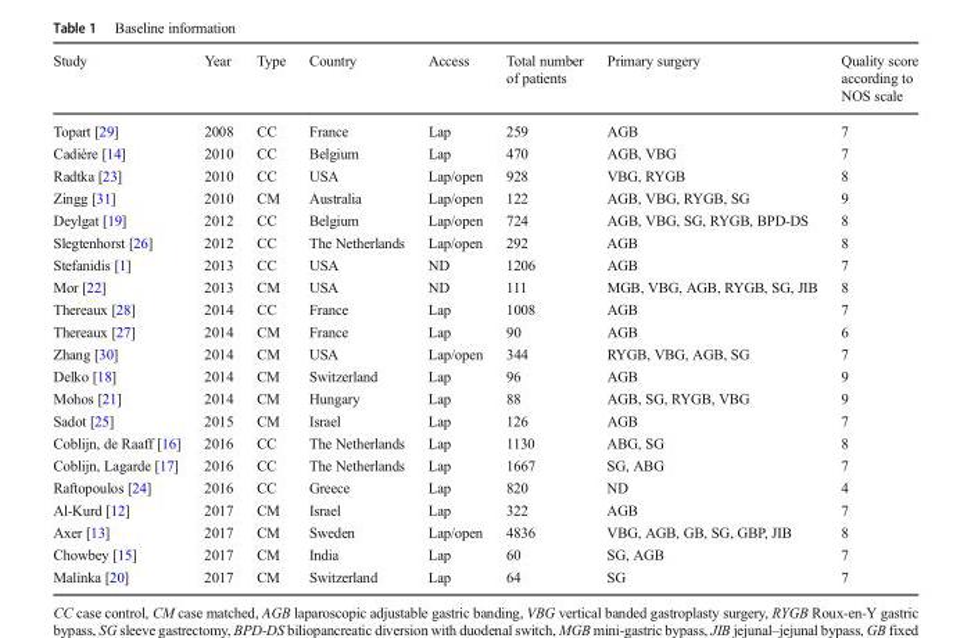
<table><thead><tr><td>Study</td><td>Year</td><td>Type</td><td>Country</td><td>Access</td><td>Total number of patients</td><td>Primary surgery</td><td>Quality score according to NOS scale</td></tr></thead><tbody><tr><td>Topart [29]</td><td>2008</td><td>CC</td><td>France</td><td>Lap</td><td>259</td><td>AGB</td><td>7</td></tr><tr><td>Cadière [14]</td><td>2010</td><td>CC</td><td>Belgium</td><td>Lap</td><td>470</td><td>AGB, VBG</td><td>7</td></tr><tr><td>Radtka [23]</td><td>2010</td><td>CC</td><td>USA</td><td>Lap/open</td><td>928</td><td>VBG, RYGB</td><td>8</td></tr><tr><td>Zingg [31]</td><td>2010</td><td>CM</td><td>Australia</td><td>Lap/open</td><td>122</td><td>AGB, VBG, RYGB, SG</td><td>9</td></tr><tr><td>Deylgat [19]</td><td>2012</td><td>CC</td><td>Belgium</td><td>Lap/open</td><td>724</td><td>AGB, VBG, SG, RYGB, BPD-DS</td><td>8</td></tr><tr><td>Slegtenhorst [26]</td><td>2012</td><td>CC</td><td>The Netherlands</td><td>Lap/open</td><td>292</td><td>AGB</td><td>8</td></tr><tr><td>Stefanidis [1]</td><td>2013</td><td>CC</td><td>USA</td><td>ND</td><td>1206</td><td>AGB</td><td>7</td></tr><tr><td>Mor [22]</td><td>2013</td><td>CM</td><td>USA</td><td>ND</td><td>111</td><td>MGB, VBG, AGB, RYGB, SG, JIB</td><td>8</td></tr><tr><td>Thereaux [28]</td><td>2014</td><td>CC</td><td>France</td><td>Lap</td><td>1008</td><td>AGB</td><td>7</td></tr><tr><td>Thereaux [27]</td><td>2014</td><td>CM</td><td>France</td><td>Lap</td><td>90</td><td>AGB</td><td>6</td></tr><tr><td>Zhang [30]</td><td>2014</td><td>CM</td><td>USA</td><td>Lap/open</td><td>344</td><td>RYGB, VBG, AGB, SG</td><td>7</td></tr><tr><td>Delko [18]</td><td>2014</td><td>CM</td><td>Switzerland</td><td>Lap</td><td>96</td><td>AGB</td><td>9</td></tr><tr><td>Mohos [21]</td><td>2014</td><td>CM</td><td>Hungary</td><td>Lap</td><td>88</td><td>AGB, SG, RYGB, VBG</td><td>9</td></tr><tr><td>Sadot [25]</td><td>2015</td><td>CM</td><td>Israel</td><td>Lap</td><td>126</td><td>AGB</td><td>7</td></tr><tr><td>Coblijn, de Raaff [16]</td><td>2016</td><td>CC</td><td>The Netherlands</td><td>Lap</td><td>1130</td><td>ABG, SG</td><td>8</td></tr><tr><td>Coblijn, Lagarde [17]</td><td>2016</td><td>CC</td><td>The Netherlands</td><td>Lap</td><td>1667</td><td>SG, ABG</td><td>7</td></tr><tr><td>Raftopoulos [24]</td><td>2016</td><td>CC</td><td>Greece</td><td>Lap</td><td>820</td><td>ND</td><td>4</td></tr><tr><td>Al-Kurd [12]</td><td>2017</td><td>CM</td><td>Israel</td><td>Lap</td><td>322</td><td>AGB</td><td>7</td></tr><tr><td>Axer [13]</td><td>2017</td><td>CM</td><td>Sweden</td><td>Lap/open</td><td>4836</td><td>VBG, AGB, GB, SG, GBP, JIB</td><td>8</td></tr><tr><td>Chowbey [15]</td><td>2017</td><td>CM</td><td>India</td><td>Lap</td><td>60</td><td>SG, AGB</td><td>7</td></tr><tr><td>Malinka [20]</td><td>2017</td><td>CM</td><td>Switzerland</td><td>Lap</td><td>64</td><td>SG</td><td>7</td></tr></tbody></table>